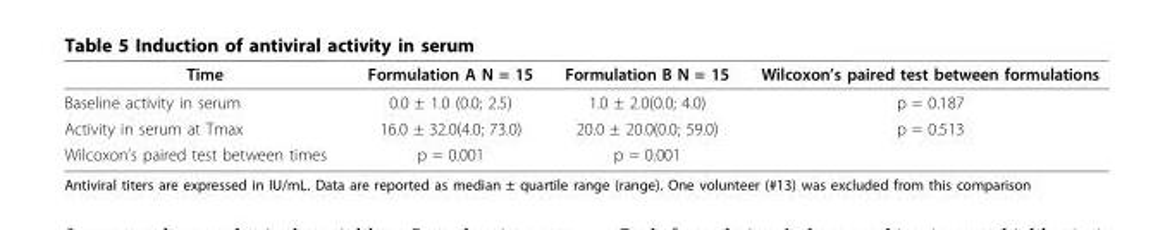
<table><thead><tr><td>Time</td><td>Formulation A N = 15</td><td>Formulation B N = 15</td><td>Wilcoxon’s paired test between formulations</td></tr></thead><tbody><tr><td>Baseline activity in serum</td><td>0.0 ± 1.0 (0.0; 2.5)</td><td>1.0 ± 2.0(0.0; 4.0)</td><td>p = 0.187</td></tr><tr><td>Activity in serum at Tmax</td><td>16.0 ± 32.0(4.0; 73.0)</td><td>20.0 ± 20.0(0.0; 59.0)</td><td>p = 0.513</td></tr><tr><td>Wilcoxon’s paired test between times</td><td>p = 0.001</td><td>p = 0.001</td><td></td></tr></tbody></table>